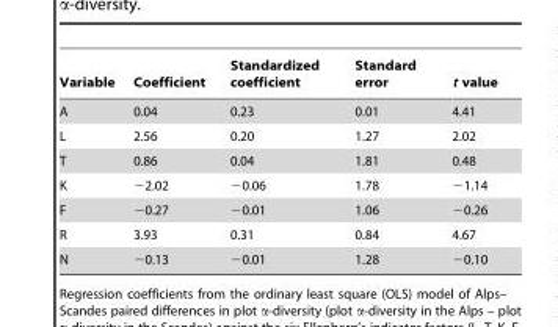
<table><thead><tr><td>Variable</td><td>Coefficient</td><td>Standardized coefficient</td><td>Standard error</td><td>t value</td></tr></thead><tbody><tr><td>A</td><td>0.04</td><td>0.23</td><td>0.01</td><td>4.41</td></tr><tr><td>L</td><td>2.56</td><td>0.20</td><td>1.27</td><td>2.02</td></tr><tr><td>T</td><td>0.86</td><td>0.04</td><td>1.81</td><td>0.48</td></tr><tr><td>K</td><td>−2.02</td><td>−0.06</td><td>1.78</td><td>−1.14</td></tr><tr><td>F</td><td>−0.27</td><td>−0.01</td><td>1.06</td><td>−0.26</td></tr><tr><td>R</td><td>3.93</td><td>0.31</td><td>0.84</td><td>4.67</td></tr><tr><td>N</td><td>−0.13</td><td>−0.01</td><td>1.28</td><td>−0.10</td></tr></tbody></table>